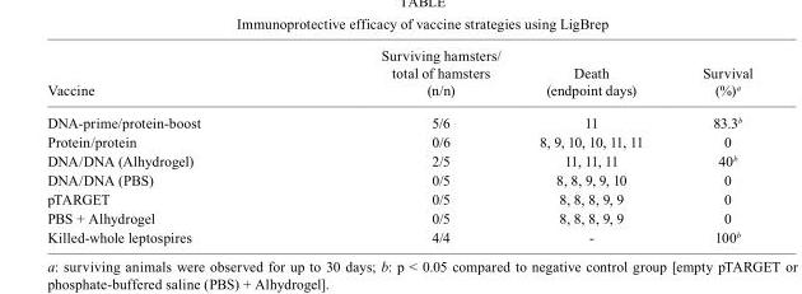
<table><thead><tr><td>Vaccine</td><td>Surviving hamsters/ total of hamsters (n/n)</td><td>Death (endpoint days)</td><td>Survival (%)a</td></tr></thead><tbody><tr><td>DNA-prime/protein-boost</td><td>5/6</td><td>11</td><td>83.3b</td></tr><tr><td>Protein/protein</td><td>0/6</td><td>8, 9, 10, 10, 11, 11</td><td>0</td></tr><tr><td>DNA/DNA (Alhydrogel)</td><td>2/5</td><td>11, 11, 11</td><td>40b</td></tr><tr><td>DNA/DNA (PBS)</td><td>0/5</td><td>8, 8, 9, 9, 10</td><td>0</td></tr><tr><td>pTARGET</td><td>0/5</td><td>8, 8, 8, 9, 9</td><td>0</td></tr><tr><td>PBS + Alhydrogel</td><td>0/5</td><td>8, 8, 8, 9, 9</td><td>0</td></tr><tr><td>Killed-whole leptospires</td><td>4/4</td><td>-</td><td>100b</td></tr></tbody></table>